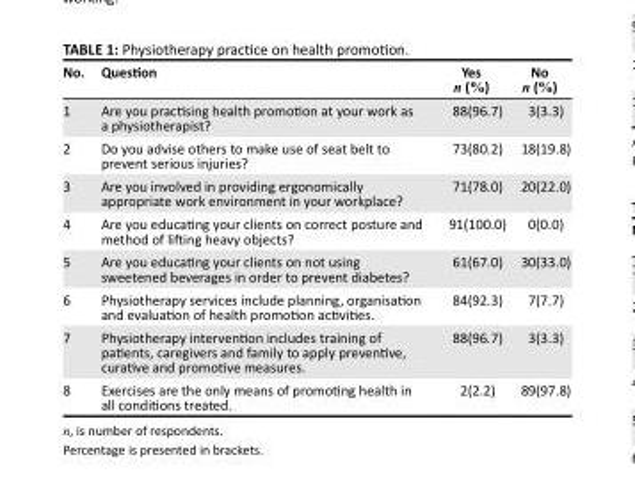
<table><thead><tr><td>No.</td><td>Question</td><td>Yes n (%)</td><td>No n (%)</td></tr></thead><tbody><tr><td>1</td><td>Are you practising health promotion at your work as a physiotherapist?</td><td>88(96.7)</td><td>3(3.3)</td></tr><tr><td>2</td><td>Do you advise others to make use of seat belt to prevent serious injuries?</td><td>73(80.2)</td><td>18(19.8)</td></tr><tr><td>3</td><td>Are you involved in providing ergonomically appropriate work environment in your workplace?</td><td>71(78.0)</td><td>20(22.0)</td></tr><tr><td>4</td><td>Are you educating your clients on correct posture and method of lifting heavy objects?</td><td>91(100.0)</td><td>0(0.0)</td></tr><tr><td>5</td><td>Are you educating your clients on not using sweetened beverages in order to prevent diabetes?</td><td>61(67.0)</td><td>30(33.0)</td></tr><tr><td>6</td><td>Physiotherapy services include planning, organisation and evaluation of health promotion activities.</td><td>84(92.3)</td><td>7(7.7)</td></tr><tr><td>7</td><td>Physiotherapy intervention includes training of patients, caregivers and family to apply preventive, curative and promotive measures.</td><td>88(96.7)</td><td>3(3.3)</td></tr><tr><td>8</td><td>Exercises are the only means of promoting health in all conditions treated.</td><td>2(2.2)</td><td>89(97.8)</td></tr></tbody></table>